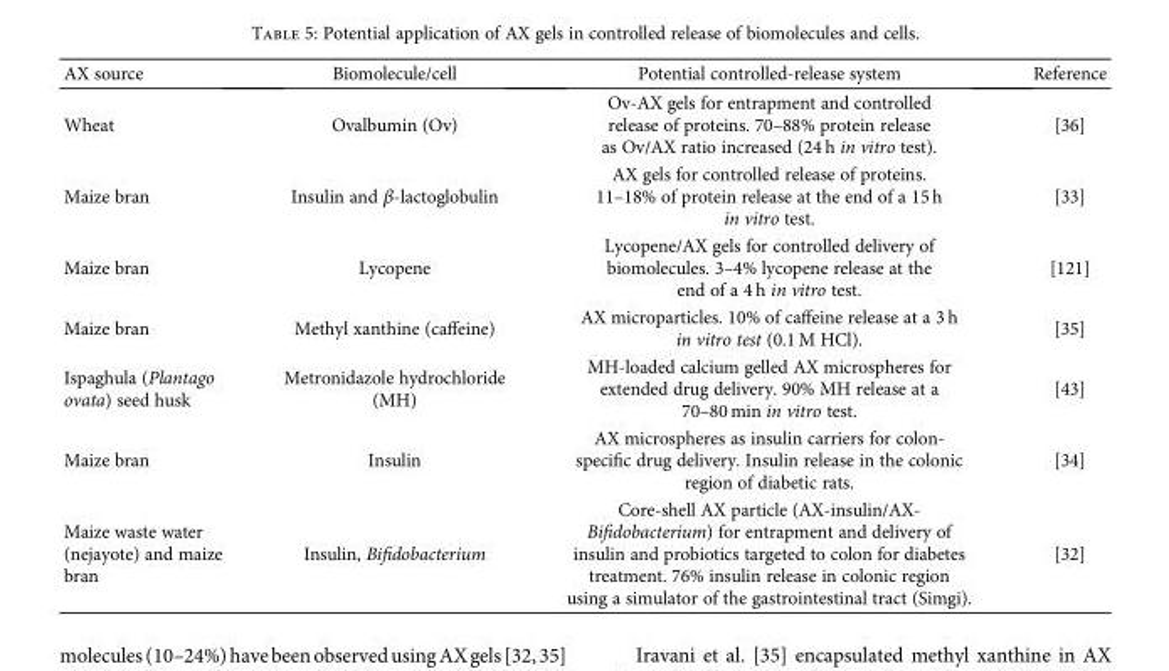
<table><thead><tr><td>AX source</td><td>Biomolecule/cell</td><td>Potential controlled-release system</td><td>Reference</td></tr></thead><tbody><tr><td>Wheat</td><td>Ovalbumin (Ov)</td><td>Ov-AX gels for entrapment and controlled release of proteins. 70–88% protein release as Ov/AX ratio increased (24 h in vitro test).</td><td>[36]</td></tr><tr><td>Maize bran</td><td>Insulin and β-lactoglobulin</td><td>AX gels for controlled release of proteins. 11–18% of protein release at the end of a 15 h in vitro test.</td><td>[33]</td></tr><tr><td>Maize bran</td><td>Lycopene</td><td>Lycopene/AX gels for controlled delivery of biomolecules. 3–4% lycopene release at the end of a 4 h in vitro test.</td><td>[121]</td></tr><tr><td>Maize bran</td><td>Methyl xanthine (caffeine)</td><td>AX microparticles. 10% of caffeine release at a 3 h in vitro test (0.1 M HCl).</td><td>[35]</td></tr><tr><td>Ispaghula (Plantago ovata) seed husk</td><td>Metronidazole hydrochloride (MH)</td><td>MH-loaded calcium gelled AX microspheres for extended drug delivery. 90% MH release at a 70–80 min in vitro test.</td><td>[43]</td></tr><tr><td>Maize bran</td><td>Insulin</td><td>AX microspheres as insulin carriers for colon- specific drug delivery. Insulin release in the colonic region of diabetic rats.</td><td>[34]</td></tr><tr><td>Maize waste water (nejayote) and maize bran</td><td>Insulin, Bifidobacterium</td><td>Core-shell AX particle (AX-insulin/AX- Bifidobacterium) for entrapment and delivery of insulin and probiotics targeted to colon for diabetes treatment. 76% insulin release in colonic region using a simulator of the gastrointestinal tract (Simgi).</td><td>[32]</td></tr></tbody></table>